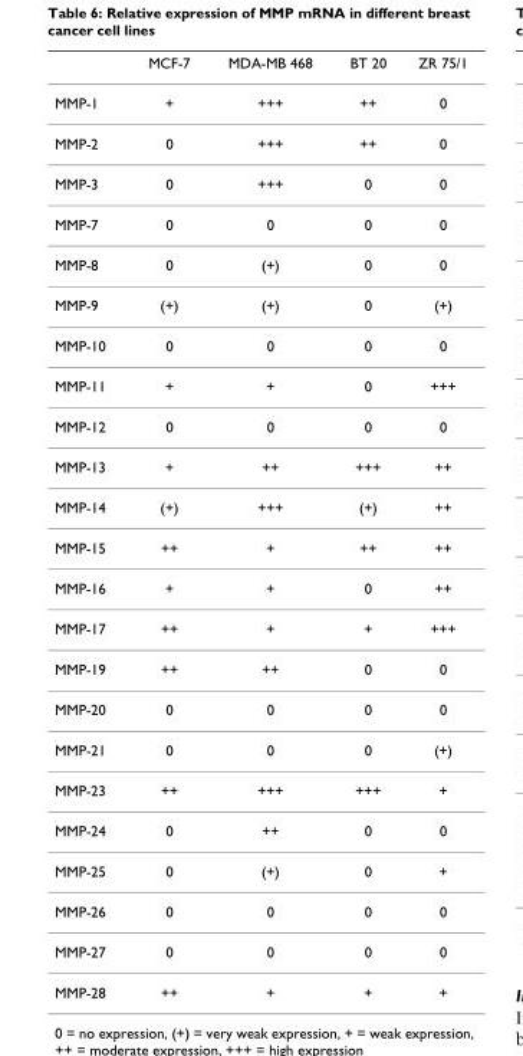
<table><thead><tr><td></td><td>MCF-7</td><td>MDA-MB 468</td><td>BT 20</td><td>ZR 75/1</td></tr></thead><tbody><tr><td>MMP-1</td><td>+</td><td>+++</td><td>++</td><td>0</td></tr><tr><td>MMP-2</td><td>0</td><td>+++</td><td>++</td><td>0</td></tr><tr><td>MMP-3</td><td>0</td><td>+++</td><td>0</td><td>0</td></tr><tr><td>MMP-7</td><td>0</td><td>0</td><td>0</td><td>0</td></tr><tr><td>MMP-8</td><td>0</td><td>(+)</td><td>0</td><td>0</td></tr><tr><td>MMP-9</td><td>(+)</td><td>(+)</td><td>0</td><td>(+)</td></tr><tr><td>MMP-10</td><td>0</td><td>0</td><td>0</td><td>0</td></tr><tr><td>MMP-11</td><td>+</td><td>+</td><td>0</td><td>+++</td></tr><tr><td>MMP-12</td><td>0</td><td>0</td><td>0</td><td>0</td></tr><tr><td>MMP-13</td><td>+</td><td>++</td><td>+++</td><td>++</td></tr><tr><td>MMP-14</td><td>(+)</td><td>+++</td><td>(+)</td><td>++</td></tr><tr><td>MMP-15</td><td>++</td><td>+</td><td>++</td><td>++</td></tr><tr><td>MMP-16</td><td>+</td><td>+</td><td>0</td><td>++</td></tr><tr><td>MMP-17</td><td>++</td><td>+</td><td>+</td><td>+++</td></tr><tr><td>MMP-19</td><td>++</td><td>++</td><td>0</td><td>0</td></tr><tr><td>MMP-20</td><td>0</td><td>0</td><td>0</td><td>0</td></tr><tr><td>MMP-21</td><td>0</td><td>0</td><td>0</td><td>(+)</td></tr><tr><td>MMP-23</td><td>++</td><td>+++</td><td>+++</td><td>+</td></tr><tr><td>MMP-24</td><td>0</td><td>++</td><td>0</td><td>0</td></tr><tr><td>MMP-25</td><td>0</td><td>(+)</td><td>0</td><td>+</td></tr><tr><td>MMP-26</td><td>0</td><td>0</td><td>0</td><td>0</td></tr><tr><td>MMP-27</td><td>0</td><td>0</td><td>0</td><td>0</td></tr><tr><td>MMP-28</td><td>++</td><td>+</td><td>+</td><td>+</td></tr></tbody></table>